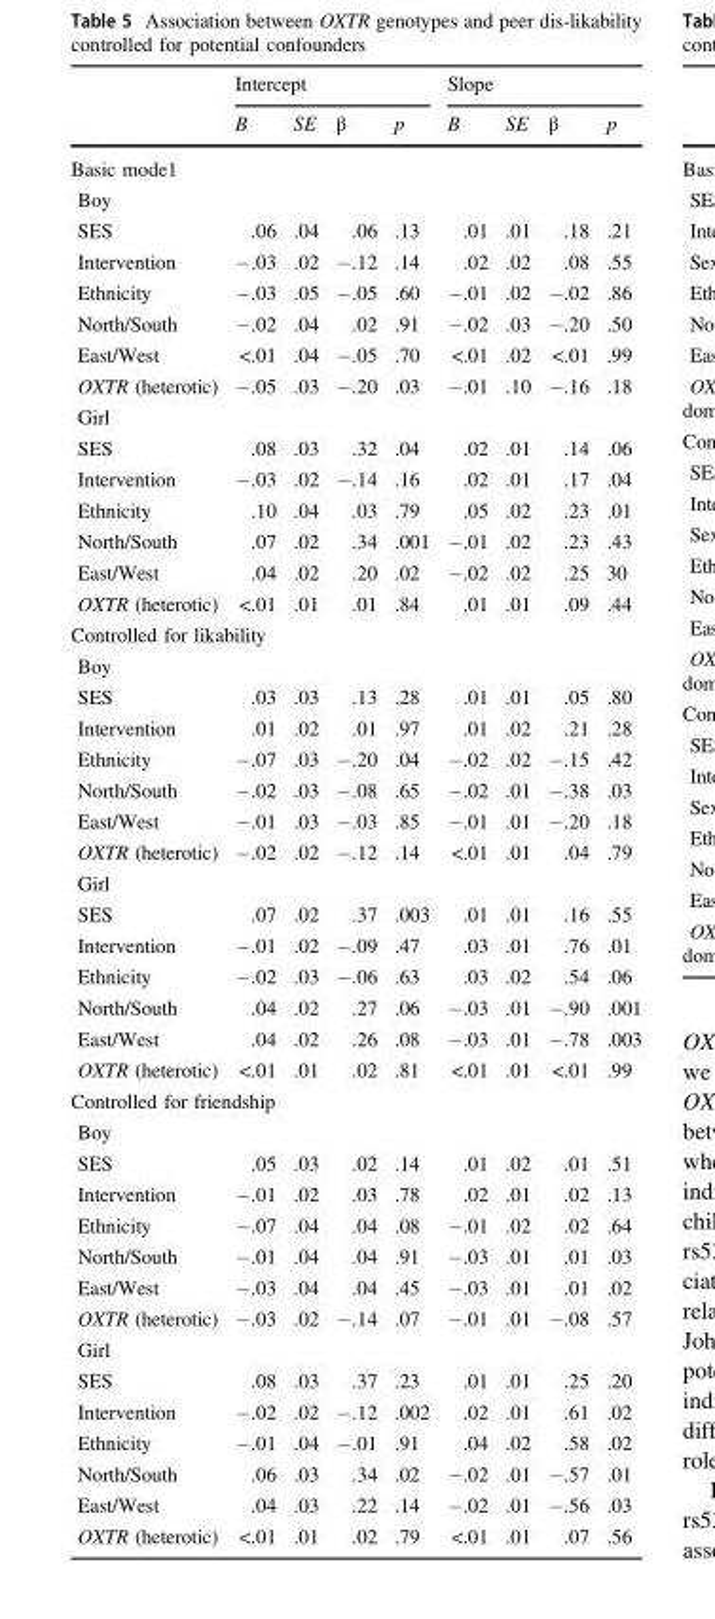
<table><thead><tr><td rowspan="2"></td><td colspan="4">Intercept</td><td colspan="4">Slope</td></tr><tr><td>B</td><td>SE</td><td>β</td><td>p</td><td>B</td><td>SE</td><td>β</td><td>p</td></tr></thead><tbody><tr><td colspan="9">Basic mode1</td></tr><tr><td colspan="9">Boy</td></tr><tr><td>SES</td><td>.06</td><td>.04</td><td>.06</td><td>.13</td><td>.01</td><td>.01</td><td>.18</td><td>.21</td></tr><tr><td>Intervention</td><td>−.03</td><td>.02</td><td>−.12</td><td>.14</td><td>.02</td><td>.02</td><td>.08</td><td>.55</td></tr><tr><td>Ethnicity</td><td>−.03</td><td>.05</td><td>−.05</td><td>.60</td><td>−.01</td><td>.02</td><td>−.02</td><td>.86</td></tr><tr><td>North/South</td><td>−.02</td><td>.04</td><td>.02</td><td>.91</td><td>−.02</td><td>.03</td><td>−.20</td><td>.50</td></tr><tr><td>East/West</td><td>&lt;.01</td><td>.04</td><td>−.05</td><td>.70</td><td>&lt;.01</td><td>.02</td><td>&lt;.01</td><td>.99</td></tr><tr><td>OXTR (heterotic)</td><td>−.05</td><td>.03</td><td>−.20</td><td>.03</td><td>−.01</td><td>.10</td><td>−.16</td><td>.18</td></tr><tr><td colspan="9">Girl</td></tr><tr><td>SES</td><td>.08</td><td>.03</td><td>.32</td><td>.04</td><td>.02</td><td>.01</td><td>.14</td><td>.06</td></tr><tr><td>Intervention</td><td>−.03</td><td>.02</td><td>−.14</td><td>.16</td><td>.02</td><td>.01</td><td>.17</td><td>.04</td></tr><tr><td>Ethnicity</td><td>.10</td><td>.04</td><td>.03</td><td>.79</td><td>.05</td><td>.02</td><td>.23</td><td>.01</td></tr><tr><td>North/South</td><td>.07</td><td>.02</td><td>.34</td><td>.001</td><td>−.01</td><td>.02</td><td>.23</td><td>.43</td></tr><tr><td>East/West</td><td>.04</td><td>.02</td><td>.20</td><td>.02</td><td>−.02</td><td>.02</td><td>.25</td><td>30</td></tr><tr><td>OXTR (heterotic)</td><td>&lt;.01</td><td>.01</td><td>.01</td><td>.84</td><td>.01</td><td>.01</td><td>.09</td><td>.44</td></tr><tr><td colspan="9">Controlled for likability</td></tr><tr><td colspan="9">Boy</td></tr><tr><td>SES</td><td>.03</td><td>.03</td><td>.13</td><td>.28</td><td>.01</td><td>.01</td><td>.05</td><td>.80</td></tr><tr><td>Intervention</td><td>.01</td><td>.02</td><td>.01</td><td>.97</td><td>.01</td><td>.02</td><td>.21</td><td>.28</td></tr><tr><td>Ethnicity</td><td>−.07</td><td>.03</td><td>−.20</td><td>.04</td><td>−.02</td><td>.02</td><td>−.15</td><td>.42</td></tr><tr><td>North/South</td><td>−.02</td><td>.03</td><td>−.08</td><td>.65</td><td>−.02</td><td>.01</td><td>−.38</td><td>.03</td></tr><tr><td>East/West</td><td>−.01</td><td>.03</td><td>−.03</td><td>.85</td><td>−.01</td><td>.01</td><td>−.20</td><td>.18</td></tr><tr><td>OXTR (heterotic)</td><td>−.02</td><td>.02</td><td>−.12</td><td>.14</td><td>&lt;.01</td><td>.01</td><td>.04</td><td>.79</td></tr><tr><td colspan="9">Girl</td></tr><tr><td>SES</td><td>.07</td><td>.02</td><td>.37</td><td>.003</td><td>.01</td><td>.01</td><td>.16</td><td>.55</td></tr><tr><td>Intervention</td><td>−.01</td><td>.02</td><td>−.09</td><td>.47</td><td>.03</td><td>.01</td><td>.76</td><td>.01</td></tr><tr><td>Ethnicity</td><td>−.02</td><td>.03</td><td>−.06</td><td>.63</td><td>.03</td><td>.02</td><td>.54</td><td>.06</td></tr><tr><td>North/South</td><td>.04</td><td>.02</td><td>.27</td><td>.06</td><td>−.03</td><td>.01</td><td>−.90</td><td>.001</td></tr><tr><td>East/West</td><td>.04</td><td>.02</td><td>.26</td><td>.08</td><td>−.03</td><td>.01</td><td>−.78</td><td>.003</td></tr><tr><td>OXTR (heterotic)</td><td>&lt;.01</td><td>.01</td><td>.02</td><td>.81</td><td>&lt;.01</td><td>.01</td><td>&lt;.01</td><td>.99</td></tr><tr><td colspan="9">Controlled for friendship</td></tr><tr><td colspan="9">Boy</td></tr><tr><td>SES</td><td>.05</td><td>.03</td><td>.02</td><td>.14</td><td>.01</td><td>.02</td><td>.01</td><td>.51</td></tr><tr><td>Intervention</td><td>−.01</td><td>.02</td><td>.03</td><td>.78</td><td>.02</td><td>.01</td><td>.02</td><td>.13</td></tr><tr><td>Ethnicity</td><td>−.07</td><td>.04</td><td>.04</td><td>.08</td><td>−.01</td><td>.02</td><td>.02</td><td>.64</td></tr><tr><td>North/South</td><td>−.01</td><td>.04</td><td>.04</td><td>.91</td><td>−.03</td><td>.01</td><td>.01</td><td>.03</td></tr><tr><td>East/West</td><td>−.03</td><td>.04</td><td>.04</td><td>.45</td><td>−.03</td><td>.01</td><td>.01</td><td>.02</td></tr><tr><td>OXTR (heterotic)</td><td>−.03</td><td>.02</td><td>−.14</td><td>.07</td><td>−.01</td><td>.01</td><td>−.08</td><td>.57</td></tr><tr><td colspan="9">Girl</td></tr><tr><td>SES</td><td>.08</td><td>.03</td><td>.37</td><td>.23</td><td>.01</td><td>.01</td><td>.25</td><td>.20</td></tr><tr><td>Intervention</td><td>−.02</td><td>.02</td><td>−.12</td><td>.002</td><td>.02</td><td>.01</td><td>.61</td><td>.02</td></tr><tr><td>Ethnicity</td><td>−.01</td><td>.04</td><td>−.01</td><td>.91</td><td>.04</td><td>.02</td><td>.58</td><td>.02</td></tr><tr><td>North/South</td><td>.06</td><td>.03</td><td>.34</td><td>.02</td><td>−.02</td><td>.01</td><td>−.57</td><td>.01</td></tr><tr><td>East/West</td><td>.04</td><td>.03</td><td>.22</td><td>.14</td><td>−.02</td><td>.01</td><td>−.56</td><td>.03</td></tr><tr><td>OXTR (heterotic)</td><td>&lt;.01</td><td>.01</td><td>.02</td><td>.79</td><td>&lt;.01</td><td>.01</td><td>.07</td><td>.56</td></tr></tbody></table>